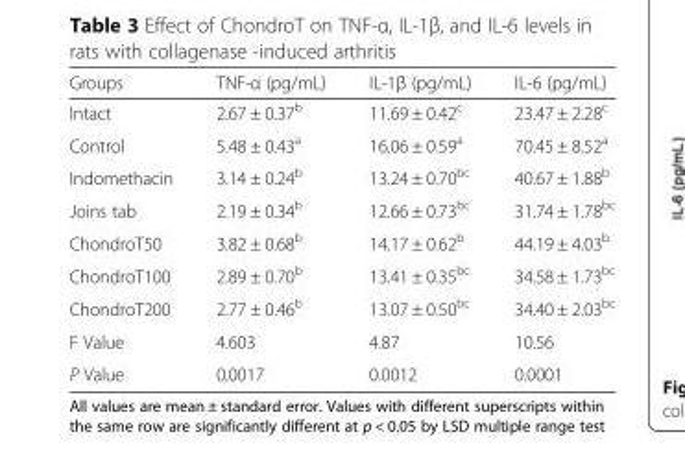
<table><thead><tr><td>Groups</td><td>TNF-α (pg/mL)</td><td>IL-1β (pg/mL)</td><td>IL-6 (pg/mL)</td></tr></thead><tbody><tr><td>Intact</td><td>2.67 ± 0.37<sup>b</sup></td><td>11.69 ± 0.42<sup>c</sup></td><td>23.47 ± 2.28<sup>c</sup></td></tr><tr><td>Control</td><td>5.48 ± 0.43<sup>a</sup></td><td>16.06 ± 0.59<sup>a</sup></td><td>70.45 ± 8.52<sup>a</sup></td></tr><tr><td>Indomethacin</td><td>3.14 ± 0.24<sup>b</sup></td><td>13.24 ± 0.70<sup>bc</sup></td><td>40.67 ± 1.88<sup>b</sup></td></tr><tr><td>Joins tab</td><td>2.19 ± 0.34<sup>b</sup></td><td>12.66 ± 0.73<sup>bc</sup></td><td>31.74 ± 1.78<sup>bc</sup></td></tr><tr><td>ChondroT50</td><td>3.82 ± 0.68<sup>b</sup></td><td>14.17 ± 0.62<sup>b</sup></td><td>44.19 ± 4.03<sup>b</sup></td></tr><tr><td>ChondroT100</td><td>2.89 ± 0.70<sup>b</sup></td><td>13.41 ± 0.35<sup>bc</sup></td><td>34.58 ± 1.73<sup>bc</sup></td></tr><tr><td>ChondroT200</td><td>2.77 ± 0.46<sup>b</sup></td><td>13.07 ± 0.50<sup>bc</sup></td><td>34.40 ± 2.03<sup>bc</sup></td></tr><tr><td>F Value</td><td>4.603</td><td>4.87</td><td>10.56</td></tr><tr><td>P Value</td><td>0.0017</td><td>0.0012</td><td>0.0001</td></tr></tbody></table>